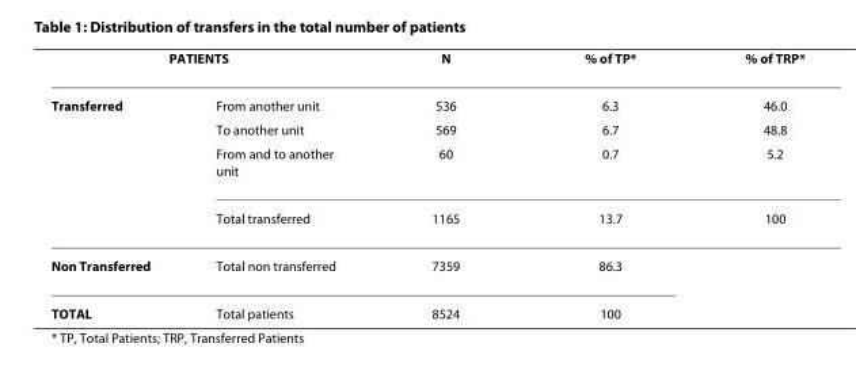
<table><thead><tr><td colspan="2">PATIENTS</td><td rowspan="2">N 536</td><td rowspan="2">% of TP* 6.3</td><td rowspan="2">% of TRP* 46.0</td></tr><tr><td>Transferred</td><td>From another unit</td></tr></thead><tbody><tr><td></td><td>To another unit</td><td>569</td><td>6.7</td><td>48.8</td></tr><tr><td></td><td>From and to another unit</td><td>60</td><td>0.7</td><td>5.2</td></tr><tr><td></td><td>Total transferred</td><td>1165</td><td>13.7</td><td>100</td></tr><tr><td>Non Transferred</td><td>Total non transferred</td><td>7359</td><td>86.3</td><td></td></tr><tr><td>TOTAL</td><td>Total patients</td><td>8524</td><td>100</td><td></td></tr></tbody></table>